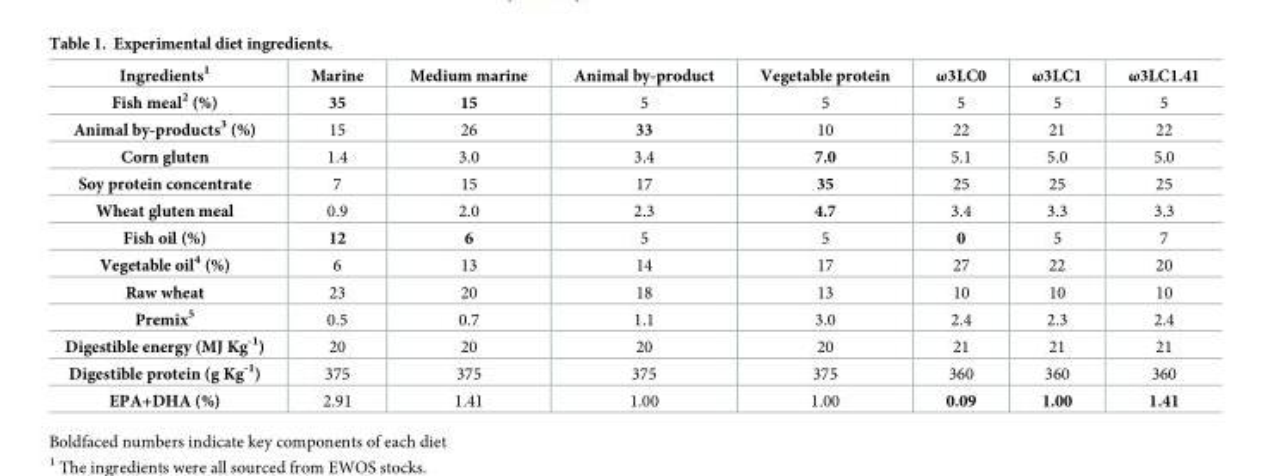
<table><thead><tr><td>Ingredients<sup>1</sup></td><td>Marine</td><td>Medium marine</td><td>Animal by-product</td><td>Vegetable protein</td><td>ω3LC0</td><td>ω3LC1</td><td>ω3LC1.41</td></tr></thead><tbody><tr><td>Fish meal<sup>2</sup> (%)</td><td>35</td><td>15</td><td>5</td><td>5</td><td>5</td><td>5</td><td>5</td></tr><tr><td>Animal by-products<sup>3</sup> (%)</td><td>15</td><td>26</td><td>33</td><td>10</td><td>22</td><td>21</td><td>22</td></tr><tr><td>Corn gluten</td><td>1.4</td><td>3.0</td><td>3.4</td><td>7.0</td><td>5.1</td><td>5.0</td><td>5.0</td></tr><tr><td>Soy protein concentrate</td><td>7</td><td>15</td><td>17</td><td>35</td><td>25</td><td>25</td><td>25</td></tr><tr><td>Wheat gluten meal</td><td>0.9</td><td>2.0</td><td>2.3</td><td>4.7</td><td>3.4</td><td>3.3</td><td>3.3</td></tr><tr><td>Fish oil (%)</td><td>12</td><td>6</td><td>5</td><td>5</td><td>0</td><td>5</td><td>7</td></tr><tr><td>Vegetable oil<sup>4</sup> (%)</td><td>6</td><td>13</td><td>14</td><td>17</td><td>27</td><td>22</td><td>20</td></tr><tr><td>Raw wheat</td><td>23</td><td>20</td><td>18</td><td>13</td><td>10</td><td>10</td><td>10</td></tr><tr><td>Premix<sup>5</sup></td><td>0.5</td><td>0.7</td><td>1.1</td><td>3.0</td><td>2.4</td><td>2.3</td><td>2.4</td></tr><tr><td>Digestible energy (MJ Kg<sup>-1</sup>)</td><td>20</td><td>20</td><td>20</td><td>20</td><td>21</td><td>21</td><td>21</td></tr><tr><td>Digestible protein (g Kg<sup>-1</sup>)</td><td>375</td><td>375</td><td>375</td><td>375</td><td>360</td><td>360</td><td>360</td></tr><tr><td>EPA+DHA (%)</td><td>2.91</td><td>1.41</td><td>1.00</td><td>1.00</td><td>0.09</td><td>1.00</td><td>1.41</td></tr></tbody></table>